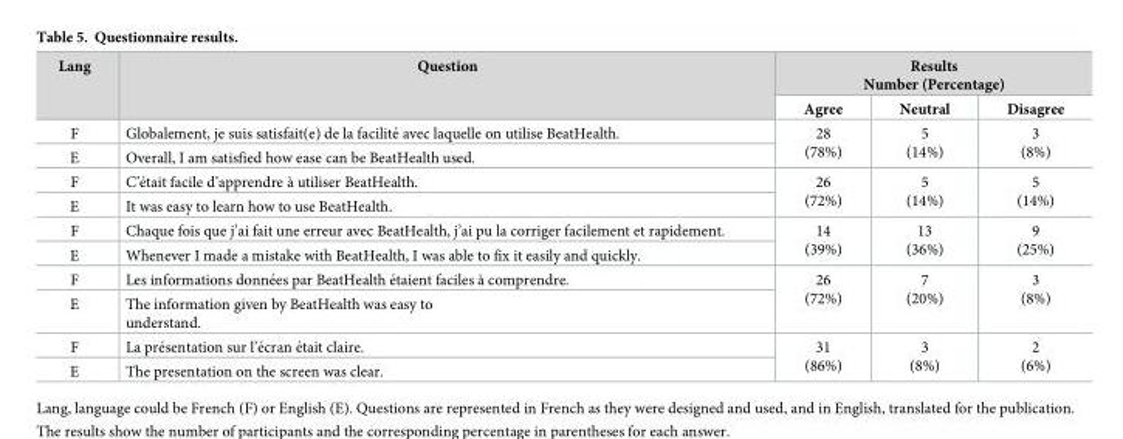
<table><thead><tr><td rowspan="2">Lang</td><td rowspan="2">Question</td><td colspan="3">Results Number (Percentage)</td></tr><tr><td>Agree</td><td>Neutral</td><td>Disagree</td></tr></thead><tbody><tr><td>F</td><td>Globalement, je suis satisfait(e) de la facilite´ avec laquelle on utilise BeatHealth.</td><td rowspan="2">28 (78%)</td><td rowspan="2">5 (14%)</td><td rowspan="2">3 (8%)</td></tr><tr><td>E</td><td>Overall, I am satisfied how ease can be BeatHealth used.</td></tr><tr><td>F</td><td>C’e´tait facile d’apprendre à utiliser BeatHealth.</td><td rowspan="2">26 (72%)</td><td rowspan="2">5 (14%)</td><td rowspan="2">5 (14%)</td></tr><tr><td>E</td><td>It was easy to learn how to use BeatHealth.</td></tr><tr><td>F</td><td>Chaque fois que j’ai fait une erreur avec BeatHealth, j’ai pu la corriger facilement et rapidement.</td><td rowspan="2">14 (39%)</td><td rowspan="2">13 (36%)</td><td rowspan="2">9 (25%)</td></tr><tr><td>E</td><td>Whenever I made a mistake with BeatHealth, I was able to fix it easily and quickly.</td></tr><tr><td>F</td><td>Les informations donne´es par BeatHealth e´taient faciles à comprendre.</td><td rowspan="2">26 (72%)</td><td rowspan="2">7 (20%)</td><td rowspan="2">3 (8%)</td></tr><tr><td>E</td><td>The information given by BeatHealth was easy to understand.</td></tr><tr><td>F</td><td>La pre´sentation sur l’e´cran e´tait claire.</td><td rowspan="2">31 (86%)</td><td rowspan="2">3 (8%)</td><td rowspan="2">2 (6%)</td></tr><tr><td>E</td><td>The presentation on the screen was clear.</td></tr></tbody></table>